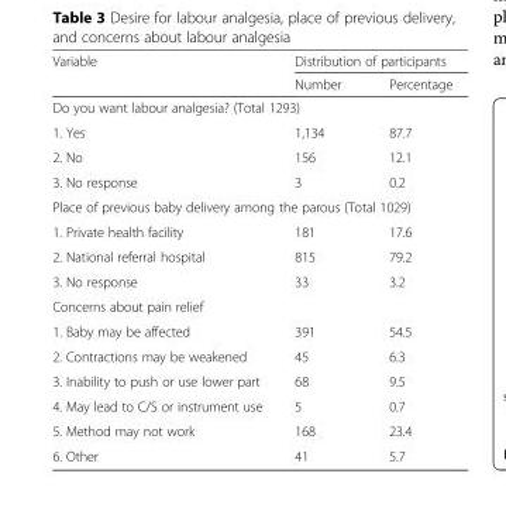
<table><thead><tr><td rowspan="2">Variable</td><td colspan="2">Distribution of participants</td></tr><tr><td>Number</td><td>Percentage</td></tr></thead><tbody><tr><td colspan="3">Do you want labour analgesia? (Total 1293)</td></tr><tr><td>1. Yes</td><td>1,134</td><td>87.7</td></tr><tr><td>2. No</td><td>156</td><td>12.1</td></tr><tr><td>3. No response</td><td>3</td><td>0.2</td></tr><tr><td colspan="3">Place of previous baby delivery among the parous (Total 1029)</td></tr><tr><td>1. Private health facility</td><td>181</td><td>17.6</td></tr><tr><td>2. National referral hospital</td><td>815</td><td>79.2</td></tr><tr><td>3. No response</td><td>33</td><td>3.2</td></tr><tr><td colspan="3">Concerns about pain relief</td></tr><tr><td>1. Baby may be affected</td><td>391</td><td>54.5</td></tr><tr><td>2. Contractions may be weakened</td><td>45</td><td>6.3</td></tr><tr><td>3. Inability to push or use lower part</td><td>68</td><td>9.5</td></tr><tr><td>4. May lead to C/S or instrument use</td><td>5</td><td>0.7</td></tr><tr><td>5. Method may not work</td><td>168</td><td>23.4</td></tr><tr><td>6. Other</td><td>41</td><td>5.7</td></tr></tbody></table>